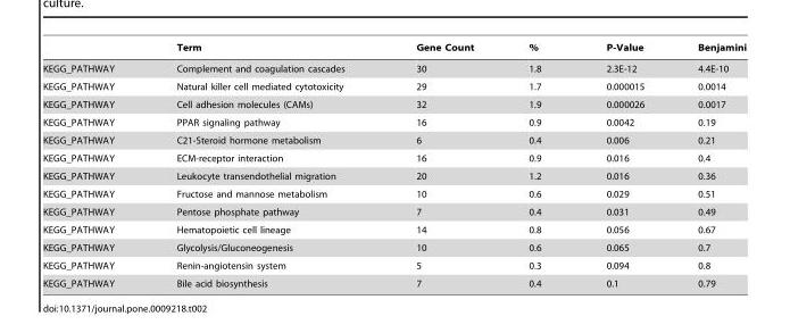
<table><thead><tr><td></td><td>Term</td><td>Gene Count</td><td>%</td><td>P-Value</td><td>Benjamini</td></tr></thead><tbody><tr><td>KEGG_PATHWAY</td><td>Complement and coagulation cascades</td><td>30</td><td>1.8</td><td>2.3E-12</td><td>4.4E-10</td></tr><tr><td>KEGG_PATHWAY</td><td>Natural killer cell mediated cytotoxicity</td><td>29</td><td>1.7</td><td>0.000015</td><td>0.0014</td></tr><tr><td>KEGG_PATHWAY</td><td>Cell adhesion molecules (CAMs)</td><td>32</td><td>1.9</td><td>0.000026</td><td>0.0017</td></tr><tr><td>KEGG_PATHWAY</td><td>PPAR signaling pathway</td><td>16</td><td>0.9</td><td>0.0042</td><td>0.19</td></tr><tr><td>KEGG_PATHWAY</td><td>C21-Steroid hormone metabolism</td><td>6</td><td>0.4</td><td>0.006</td><td>0.21</td></tr><tr><td>KEGG_PATHWAY</td><td>ECM-receptor interaction</td><td>16</td><td>0.9</td><td>0.016</td><td>0.4</td></tr><tr><td>KEGG_PATHWAY</td><td>Leukocyte transendothelial migration</td><td>20</td><td>1.2</td><td>0.016</td><td>0.36</td></tr><tr><td>KEGG_PATHWAY</td><td>Fructose and mannose metabolism</td><td>10</td><td>0.6</td><td>0.029</td><td>0.51</td></tr><tr><td>KEGG_PATHWAY</td><td>Pentose phosphate pathway</td><td>7</td><td>0.4</td><td>0.031</td><td>0.49</td></tr><tr><td>KEGG_PATHWAY</td><td>Hematopoietic cell lineage</td><td>14</td><td>0.8</td><td>0.056</td><td>0.67</td></tr><tr><td>KEGG_PATHWAY</td><td>Glycolysis/Gluconeogenesis</td><td>10</td><td>0.6</td><td>0.065</td><td>0.7</td></tr><tr><td>KEGG_PATHWAY</td><td>Renin-angiotensin system</td><td>5</td><td>0.3</td><td>0.094</td><td>0.8</td></tr><tr><td>KEGG_PATHWAY</td><td>Bile acid biosynthesis</td><td>7</td><td>0.4</td><td>0.1</td><td>0.79</td></tr></tbody></table>